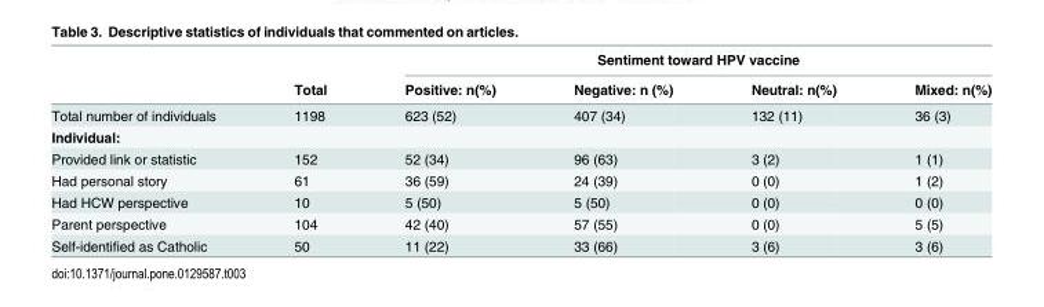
<table><thead><tr><td rowspan="2"></td><td rowspan="2">Total</td><td colspan="4">Sentiment toward HPV vaccine</td></tr><tr><td>Positive: n(%)</td><td>Negative: n (%)</td><td>Neutral: n(%)</td><td>Mixed: n(%)</td></tr></thead><tbody><tr><td>Total number of individuals</td><td>1198</td><td>623 (52)</td><td>407 (34)</td><td>132 (11)</td><td>36 (3)</td></tr><tr><td colspan="6">Individual:</td></tr><tr><td>Provided link or statistic</td><td>152</td><td>52 (34)</td><td>96 (63)</td><td>3 (2)</td><td>1 (1)</td></tr><tr><td>Had personal story</td><td>61</td><td>36 (59)</td><td>24 (39)</td><td>0 (0)</td><td>1 (2)</td></tr><tr><td>Had HCW perspective</td><td>10</td><td>5 (50)</td><td>5 (50)</td><td>0 (0)</td><td>0 (0)</td></tr><tr><td>Parent perspective</td><td>104</td><td>42 (40)</td><td>57 (55)</td><td>0 (0)</td><td>5 (5)</td></tr><tr><td>Self-identified as Catholic</td><td>50</td><td>11 (22)</td><td>33 (66)</td><td>3 (6)</td><td>3 (6)</td></tr></tbody></table>